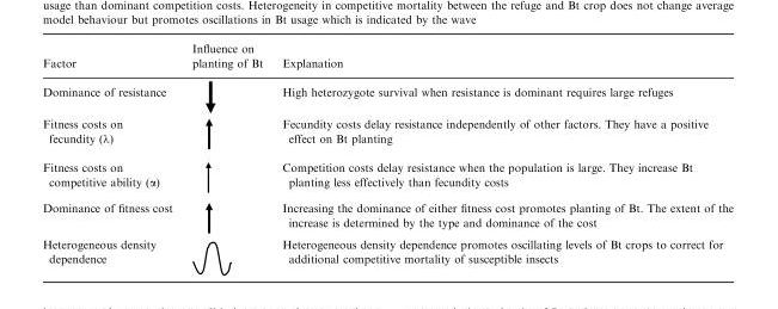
<table><thead><tr><td>Factor</td><td>Influence on planting of Bt</td><td>Explanation</td></tr></thead><tbody><tr><td>Dominance of resistance</td><td></td><td>High heterozygote survival when resistance is dominant requires large refuges</td></tr><tr><td>Fitness costs on fecundity (λ)</td><td></td><td>Fecundity costs delay resistance independently of other factors. They have a positive effect on Bt planting</td></tr><tr><td>Fitness costs on competitive ability (α)</td><td></td><td>Competition costs delay resistance when the population is large. They increase Bt planting less effectively than fecundity costs</td></tr><tr><td>Dominance of fitness cost</td><td></td><td>Increasing the dominance of either fitness cost promotes planting of Bt. The extent of the increase is determined by the type and dominance of the cost</td></tr><tr><td>Heterogeneous density dependence</td><td></td><td>Heterogeneous density dependence promotes oscillating levels of Bt crops to correct for additional competitive mortality of susceptible insects</td></tr></tbody></table>